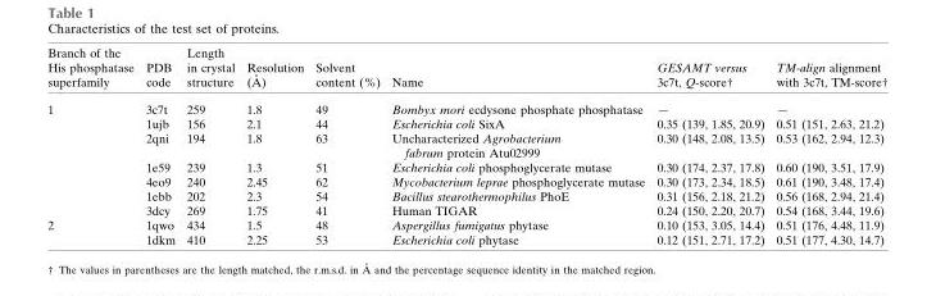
<table><thead><tr><td>Branch of the His phosphatase superfamily</td><td>PDB code</td><td>Length in crystal structure</td><td>Resolution (A˚ )</td><td>Solvent content (%)</td><td>Name</td><td>GESAMT versus 3c7t, Q-score†</td><td>TM-align alignment with 3c7t, TM-score†</td></tr></thead><tbody><tr><td rowspan="7">1</td><td>3c7t</td><td>259</td><td>1.8</td><td>49</td><td>Bombyx mori ecdysone phosphate phosphatase</td><td>—</td><td>—</td></tr><tr><td>1ujb</td><td>156</td><td>2.1</td><td>44</td><td>Escherichia coli SixA</td><td>0.35 (139, 1.85, 20.9)</td><td>0.51 (151, 2.63, 21.2)</td></tr><tr><td>2qni</td><td>194</td><td>1.8</td><td>63</td><td>Uncharacterized Agrobacterium fabrum protein Atu02999</td><td>0.30 (148, 2.08, 13.5)</td><td>0.53 (162, 2.94, 12.3)</td></tr><tr><td>1e59</td><td>239</td><td>1.3</td><td>51</td><td>Escherichia coli phosphoglycerate mutase</td><td>0.30 (174, 2.37, 17.8)</td><td>0.60 (190, 3.51, 17.9)</td></tr><tr><td>4eo9</td><td>240</td><td>2.45</td><td>62</td><td>Mycobacterium leprae phosphoglycerate mutase</td><td>0.30 (173, 2.34, 18.5)</td><td>0.61 (190, 3.48, 17.4)</td></tr><tr><td>1ebb</td><td>202</td><td>2.3</td><td>54</td><td>Bacillus stearothermophilus PhoE</td><td>0.31 (156, 2.18, 21.2)</td><td>0.56 (168, 2.94, 21.4)</td></tr><tr><td>3dcy</td><td>269</td><td>1.75</td><td>41</td><td>Human TIGAR</td><td>0.24 (150, 2.20, 20.7)</td><td>0.54 (168, 3.44, 19.6)</td></tr><tr><td rowspan="2">2</td><td>1qwo</td><td>434</td><td>1.5</td><td>48</td><td>Aspergillus fumigatus phytase</td><td>0.10 (153, 3.05, 14.4)</td><td>0.51 (176, 4.48, 11.9)</td></tr><tr><td>1dkm</td><td>410</td><td>2.25</td><td>53</td><td>Escherichia coli phytase</td><td>0.12 (151, 2.71, 17.2)</td><td>0.51 (177, 4.30, 14.7)</td></tr></tbody></table>